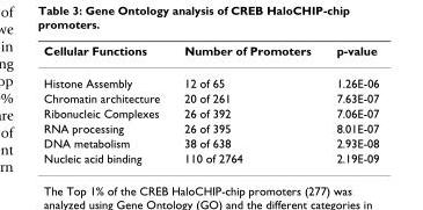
<table><thead><tr><td>Cellular Functions</td><td>Number of Promoters</td><td>p-value</td></tr></thead><tbody><tr><td>Histone Assembly</td><td>12 of 65</td><td>1.26E-06</td></tr><tr><td>Chromatin architecture</td><td>20 of 261</td><td>7.63E-07</td></tr><tr><td>Ribonucleic Complexes</td><td>26 of 392</td><td>7.06E-07</td></tr><tr><td>RNA processing</td><td>26 of 395</td><td>8.01E-07</td></tr><tr><td>DNA metabolism</td><td>38 of 638</td><td>2.93E-08</td></tr><tr><td>Nucleic acid binding</td><td>110 of 2764</td><td>2.19E-09</td></tr></tbody></table>